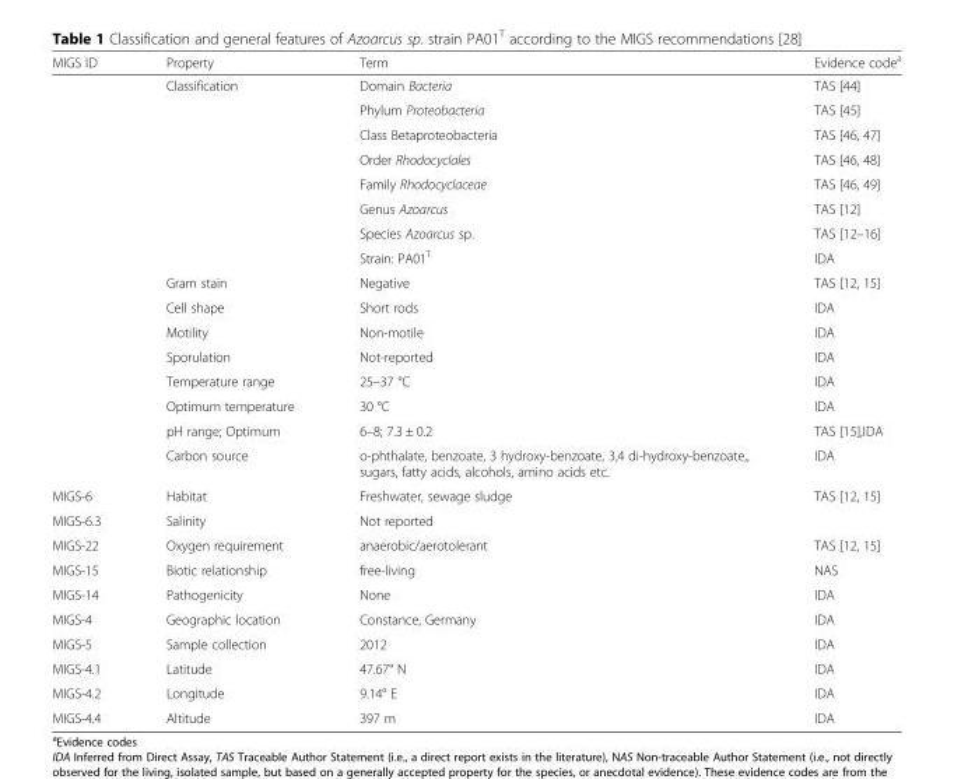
<table><thead><tr><td>MIGS ID</td><td>Property</td><td>Term</td><td>Evidence code<sup>a</sup></td></tr></thead><tbody><tr><td></td><td>Classification</td><td>Domain Bacteria</td><td>TAS [44]</td></tr><tr><td></td><td></td><td>Phylum Proteobacteria</td><td>TAS [45]</td></tr><tr><td></td><td></td><td>Class Betaproteobacteria</td><td>TAS [46, 47]</td></tr><tr><td></td><td></td><td>Order Rhodocyclales</td><td>TAS [46, 48]</td></tr><tr><td></td><td></td><td>Family Rhodocyclaceae</td><td>TAS [46, 49]</td></tr><tr><td></td><td></td><td>Genus Azoarcus</td><td>TAS [12]</td></tr><tr><td></td><td></td><td>Species Azoarcus sp.</td><td>TAS [12–16]</td></tr><tr><td></td><td></td><td>Strain: PA01<sup>T</sup></td><td>IDA</td></tr><tr><td></td><td>Gram stain</td><td>Negative</td><td>TAS [12, 15]</td></tr><tr><td></td><td>Cell shape</td><td>Short rods</td><td>IDA</td></tr><tr><td></td><td>Motility</td><td>Non-motile</td><td>IDA</td></tr><tr><td></td><td>Sporulation</td><td>Not-reported</td><td>IDA</td></tr><tr><td></td><td>Temperature range</td><td>25–37 °C</td><td>IDA</td></tr><tr><td></td><td>Optimum temperature</td><td>30 °C</td><td>IDA</td></tr><tr><td></td><td>pH range; Optimum</td><td>6–8; 7.3 ± 0.2</td><td>TAS [15],IDA</td></tr><tr><td></td><td>Carbon source</td><td>o-phthalate, benzoate, 3 hydroxy-benzoate, 3,4 di-hydroxy-benzoate,, sugars, fatty acids, alcohols, amino acids etc.</td><td>IDA</td></tr><tr><td>MIGS-6</td><td>Habitat</td><td>Freshwater, sewage sludge</td><td>TAS [12, 15]</td></tr><tr><td>MIGS-6.3</td><td>Salinity</td><td>Not reported</td><td></td></tr><tr><td>MIGS-22</td><td>Oxygen requirement</td><td>anaerobic/aerotolerant</td><td>TAS [12, 15]</td></tr><tr><td>MIGS-15</td><td>Biotic relationship</td><td>free-living</td><td>NAS</td></tr><tr><td>MIGS-14</td><td>Pathogenicity</td><td>None</td><td>IDA</td></tr><tr><td>MIGS-4</td><td>Geographic location</td><td>Constance, Germany</td><td>IDA</td></tr><tr><td>MIGS-5</td><td>Sample collection</td><td>2012</td><td>IDA</td></tr><tr><td>MIGS-4.1</td><td>Latitude</td><td>47.67° N</td><td>IDA</td></tr><tr><td>MIGS-4.2</td><td>Longitude</td><td>9.14° E</td><td>IDA</td></tr><tr><td>MIGS-4.4</td><td>Altitude</td><td>397 m</td><td>IDA</td></tr></tbody></table>